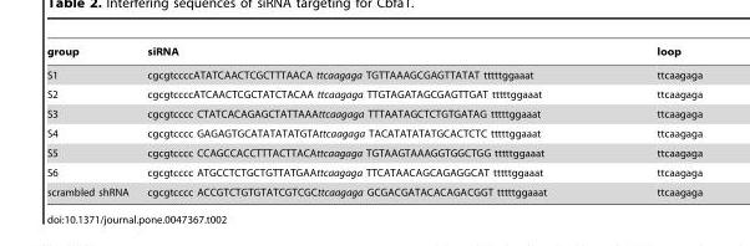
<table><thead><tr><td>group</td><td>siRNA</td><td>loop</td></tr></thead><tbody><tr><td>S1</td><td>cgcgtccccATATCAACTCGCTTTAACA ttcaagaga TGTTAAAGCGAGTTATAT tttttggaaat</td><td>ttcaagaga</td></tr><tr><td>S2</td><td>cgcgtccccATCAACTCGCTATCTACAA ttcaagaga TTGTAGATAGCGAGTTGAT tttttggaaat</td><td>ttcaagaga</td></tr><tr><td>S3</td><td>cgcgtcccc CTATCACAGAGCTATTAAAttcaagaga TTTAATAGCTCTGTGATAG tttttggaaat</td><td>ttcaagaga</td></tr><tr><td>S4</td><td>cgcgtcccc GAGAGTGCATATATATGTAttcaagaga TACATATATATGCACTCTC tttttggaaat</td><td>ttcaagaga</td></tr><tr><td>S5</td><td>cgcgtcccc CCAGCCACCTTTACTTACAttcaagaga TGTAAGTAAAGGTGGCTGG tttttggaaat</td><td>ttcaagaga</td></tr><tr><td>S6</td><td>cgcgtcccc ATGCCTCTGCTGTTATGAAttcaagaga TTCATAACAGCAGAGGCAT tttttggaaat</td><td>ttcaagaga</td></tr><tr><td>scrambled shRNA</td><td>cgcgtcccc ACCGTCTGTGTATCGTCGCttcaagaga GCGACGATACACAGACGGT tttttggaaat</td><td>ttcaagaga</td></tr></tbody></table>